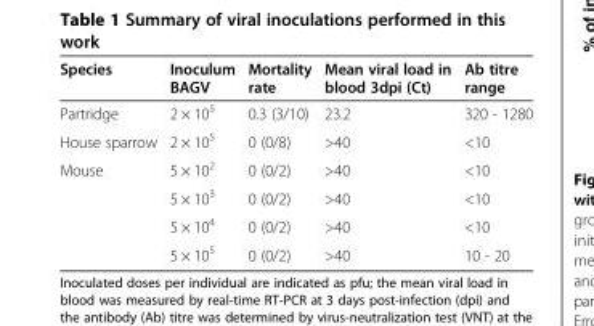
<table><thead><tr><td>Species</td><td>Inoculum BAGV</td><td>Mortality rate</td><td>Mean viral load in blood 3dpi (Ct)</td><td>Ab titre range</td></tr></thead><tbody><tr><td>Partridge</td><td>2 × 10<sup>5</sup></td><td>0.3 (3/10)</td><td>23.2</td><td>320 - 1280</td></tr><tr><td>House sparrow</td><td>2 × 10<sup>5</sup></td><td>0 (0/8)</td><td>&gt;40</td><td>&lt;10</td></tr><tr><td rowspan="4">Mouse</td><td>5 × 10<sup>2</sup></td><td>0 (0/2)</td><td>&gt;40</td><td>&lt;10</td></tr><tr><td>5 × 10<sup>3</sup></td><td>0 (0/2)</td><td>&gt;40</td><td>&lt;10</td></tr><tr><td>5 × 10<sup>4</sup></td><td>0 (0/2)</td><td>&gt;40</td><td>&lt;10</td></tr><tr><td>5 × 10<sup>5</sup></td><td>0 (0/2)</td><td>&gt;40</td><td>10 - 20</td></tr></tbody></table>